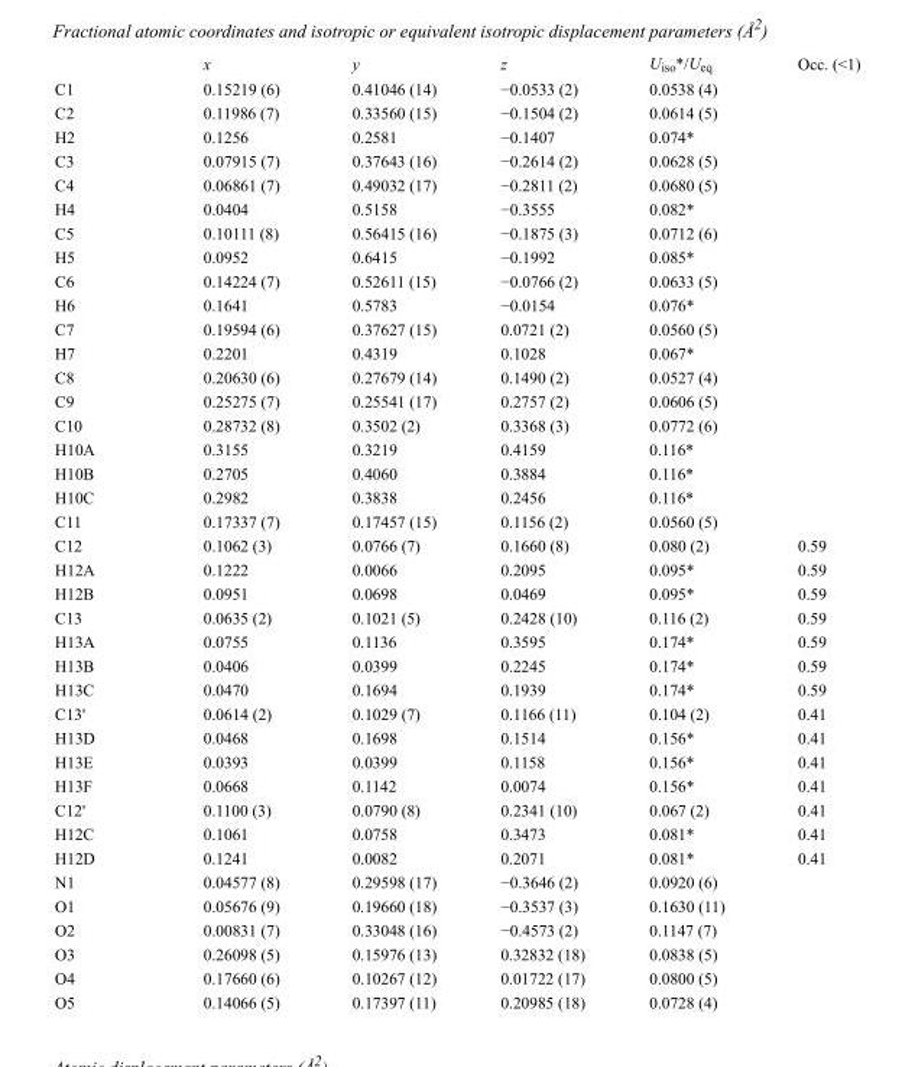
<table><thead><tr><td></td><td>x</td><td>y</td><td>z</td><td>U<sub>iso</sub>*/U<sub>eq</sub></td><td>Occ. (&lt;1)</td></tr></thead><tbody><tr><td>C1</td><td>0.15219 (6)</td><td>0.41046 (14)</td><td>−0.0533 (2)</td><td>0.0538 (4)</td><td></td></tr><tr><td>C2</td><td>0.11986 (7)</td><td>0.33560 (15)</td><td>−0.1504 (2)</td><td>0.0614 (5)</td><td></td></tr><tr><td>H2</td><td>0.1256</td><td>0.2581</td><td>−0.1407</td><td>0.074*</td><td></td></tr><tr><td>C3</td><td>0.07915 (7)</td><td>0.37643 (16)</td><td>−0.2614 (2)</td><td>0.0628 (5)</td><td></td></tr><tr><td>C4</td><td>0.06861 (7)</td><td>0.49032 (17)</td><td>−0.2811 (2)</td><td>0.0680 (5)</td><td></td></tr><tr><td>H4</td><td>0.0404</td><td>0.5158</td><td>−0.3555</td><td>0.082*</td><td></td></tr><tr><td>C5</td><td>0.10111 (8)</td><td>0.56415 (16)</td><td>−0.1875 (3)</td><td>0.0712 (6)</td><td></td></tr><tr><td>H5</td><td>0.0952</td><td>0.6415</td><td>−0.1992</td><td>0.085*</td><td></td></tr><tr><td>C6</td><td>0.14224 (7)</td><td>0.52611 (15)</td><td>−0.0766 (2)</td><td>0.0633 (5)</td><td></td></tr><tr><td>H6</td><td>0.1641</td><td>0.5783</td><td>−0.0154</td><td>0.076*</td><td></td></tr><tr><td>C7</td><td>0.19594 (6)</td><td>0.37627 (15)</td><td>0.0721 (2)</td><td>0.0560 (5)</td><td></td></tr><tr><td>H7</td><td>0.2201</td><td>0.4319</td><td>0.1028</td><td>0.067*</td><td></td></tr><tr><td>C8</td><td>0.20630 (6)</td><td>0.27679 (14)</td><td>0.1490 (2)</td><td>0.0527 (4)</td><td></td></tr><tr><td>C9</td><td>0.25275 (7)</td><td>0.25541 (17)</td><td>0.2757 (2)</td><td>0.0606 (5)</td><td></td></tr><tr><td>C10</td><td>0.28732 (8)</td><td>0.3502 (2)</td><td>0.3368 (3)</td><td>0.0772 (6)</td><td></td></tr><tr><td>H10A</td><td>0.3155</td><td>0.3219</td><td>0.4159</td><td>0.116*</td><td></td></tr><tr><td>H10B</td><td>0.2705</td><td>0.4060</td><td>0.3884</td><td>0.116*</td><td></td></tr><tr><td>H10C</td><td>0.2982</td><td>0.3838</td><td>0.2456</td><td>0.116*</td><td></td></tr><tr><td>C11</td><td>0.17337 (7)</td><td>0.17457 (15)</td><td>0.1156 (2)</td><td>0.0560 (5)</td><td></td></tr><tr><td>C12</td><td>0.1062 (3)</td><td>0.0766 (7)</td><td>0.1660 (8)</td><td>0.080 (2)</td><td>0.59</td></tr><tr><td>H12A</td><td>0.1222</td><td>0.0066</td><td>0.2095</td><td>0.095*</td><td>0.59</td></tr><tr><td>H12B</td><td>0.0951</td><td>0.0698</td><td>0.0469</td><td>0.095*</td><td>0.59</td></tr><tr><td>C13</td><td>0.0635 (2)</td><td>0.1021 (5)</td><td>0.2428 (10)</td><td>0.116 (2)</td><td>0.59</td></tr><tr><td>H13A</td><td>0.0755</td><td>0.1136</td><td>0.3595</td><td>0.174*</td><td>0.59</td></tr><tr><td>H13B</td><td>0.0406</td><td>0.0399</td><td>0.2245</td><td>0.174*</td><td>0.59</td></tr><tr><td>H13C</td><td>0.0470</td><td>0.1694</td><td>0.1939</td><td>0.174*</td><td>0.59</td></tr><tr><td>C13&#x27;</td><td>0.0614 (2)</td><td>0.1029 (7)</td><td>0.1166 (11)</td><td>0.104 (2)</td><td>0.41</td></tr><tr><td>H13D</td><td>0.0468</td><td>0.1698</td><td>0.1514</td><td>0.156*</td><td>0.41</td></tr><tr><td>H13E</td><td>0.0393</td><td>0.0399</td><td>0.1158</td><td>0.156*</td><td>0.41</td></tr><tr><td>H13F</td><td>0.0668</td><td>0.1142</td><td>0.0074</td><td>0.156*</td><td>0.41</td></tr><tr><td>C12&#x27;</td><td>0.1100 (3)</td><td>0.0790 (8)</td><td>0.2341 (10)</td><td>0.067 (2)</td><td>0.41</td></tr><tr><td>H12C</td><td>0.1061</td><td>0.0758</td><td>0.3473</td><td>0.081*</td><td>0.41</td></tr><tr><td>H12D</td><td>0.1241</td><td>0.0082</td><td>0.2071</td><td>0.081*</td><td>0.41</td></tr><tr><td>N1</td><td>0.04577 (8)</td><td>0.29598 (17)</td><td>−0.3646 (2)</td><td>0.0920 (6)</td><td></td></tr><tr><td>O1</td><td>0.05676 (9)</td><td>0.19660 (18)</td><td>−0.3537 (3)</td><td>0.1630 (11)</td><td></td></tr><tr><td>O2</td><td>0.00831 (7)</td><td>0.33048 (16)</td><td>−0.4573 (2)</td><td>0.1147 (7)</td><td></td></tr><tr><td>O3</td><td>0.26098 (5)</td><td>0.15976 (13)</td><td>0.32832 (18)</td><td>0.0838 (5)</td><td></td></tr><tr><td>O4</td><td>0.17660 (6)</td><td>0.10267 (12)</td><td>0.01722 (17)</td><td>0.0800 (5)</td><td></td></tr><tr><td>O5</td><td>0.14066 (5)</td><td>0.17397 (11)</td><td>0.20985 (18)</td><td>0.0728 (4)</td><td></td></tr></tbody></table>